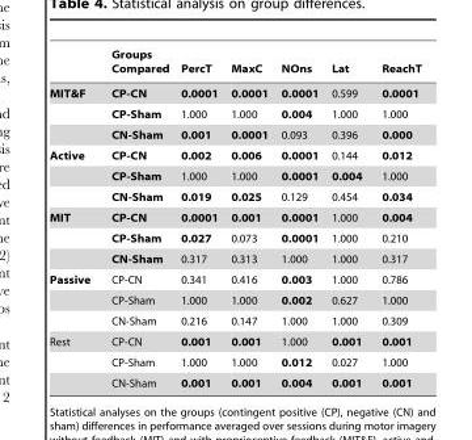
<table><thead><tr><td></td><td>Groups Compared</td><td>PercT</td><td>MaxC</td><td>NOns</td><td>Lat</td><td>ReachT</td></tr></thead><tbody><tr><td rowspan="3">MIT&amp;F</td><td>CP-CN</td><td>0.0001</td><td>0.0001</td><td>0.0001</td><td>0.599</td><td>0.0001</td></tr><tr><td>CP-Sham</td><td>1.000</td><td>1.000</td><td>0.004</td><td>1.000</td><td>1.000</td></tr><tr><td>CN-Sham</td><td>0.001</td><td>0.0001</td><td>0.093</td><td>0.396</td><td>0.000</td></tr><tr><td rowspan="3">Active</td><td>CP-CN</td><td>0.002</td><td>0.006</td><td>0.0001</td><td>0.144</td><td>0.012</td></tr><tr><td>CP-Sham</td><td>1.000</td><td>1.000</td><td>0.0001</td><td>0.004</td><td>1.000</td></tr><tr><td>CN-Sham</td><td>0.019</td><td>0.025</td><td>0.129</td><td>0.454</td><td>0.034</td></tr><tr><td rowspan="3">MIT</td><td>CP-CN</td><td>0.0001</td><td>0.001</td><td>0.0001</td><td>1.000</td><td>0.004</td></tr><tr><td>CP-Sham</td><td>0.027</td><td>0.073</td><td>0.0001</td><td>1.000</td><td>0.210</td></tr><tr><td>CN-Sham</td><td>0.317</td><td>0.313</td><td>1.000</td><td>1.000</td><td>0.317</td></tr><tr><td rowspan="3">Passive</td><td>CP-CN</td><td>0.341</td><td>0.416</td><td>0.003</td><td>1.000</td><td>0.786</td></tr><tr><td>CP-Sham</td><td>1.000</td><td>1.000</td><td>0.002</td><td>0.627</td><td>1.000</td></tr><tr><td>CN-Sham</td><td>0.216</td><td>0.147</td><td>1.000</td><td>1.000</td><td>0.309</td></tr><tr><td rowspan="3">Rest</td><td>CP-CN</td><td>0.001</td><td>0.001</td><td>1.000</td><td>0.001</td><td>0.001</td></tr><tr><td>CP-Sham</td><td>1.000</td><td>1.000</td><td>0.012</td><td>0.027</td><td>1.000</td></tr><tr><td>CN-Sham</td><td>0.001</td><td>0.001</td><td>0.004</td><td>0.001</td><td>0.001</td></tr></tbody></table>